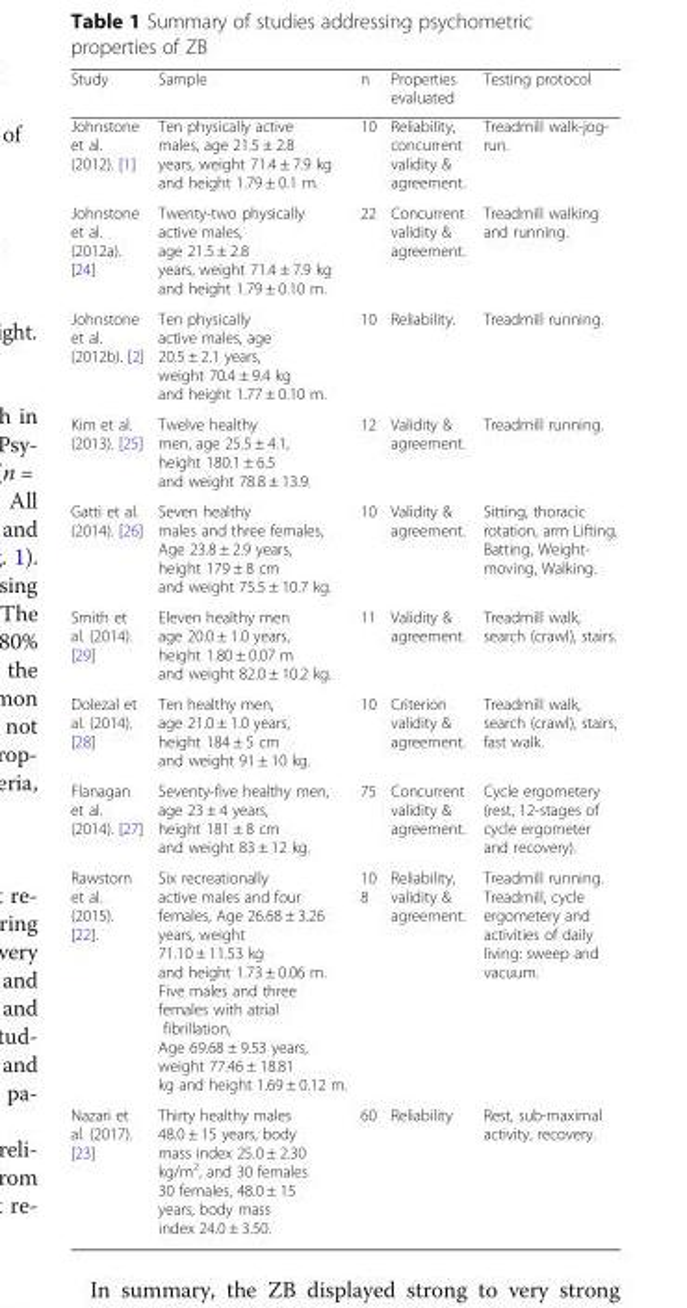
<table><thead><tr><td>Study</td><td>Sample</td><td>n</td><td>Properties evaluated</td><td>Testing protocol</td></tr></thead><tbody><tr><td>Johnstone et al. (2012). [1]</td><td>Ten physically active males, age 21.5 ± 2.8 years, weight 71.4 ± 7.9 kg and height 1.79 ± 0.1 m.</td><td>10</td><td>Reliability, concurrent validity &amp; agreement.</td><td>Treadmill walk-jog- run.</td></tr><tr><td>Johnstone et al. (2012a). [24]</td><td>Twenty-two physically active males, age 21.5 ± 2.8 years, weight 71.4 ± 7.9 kg and height 1.79 ± 0.10 m.</td><td>22</td><td>Concurrent validity &amp; agreement.</td><td>Treadmill walking and running.</td></tr><tr><td>Johnstone et al. (2012b). [2]</td><td>Ten physically active males, age 20.5 ± 2.1 years, weight 70.4 ± 9.4 kg and height 1.77 ± 0.10 m.</td><td>10</td><td>Reliability.</td><td>Treadmill running.</td></tr><tr><td>Kim et al. (2013). [25]</td><td>Twelve healthy men, age 25.5 ± 4.1, height 180.1 ± 6.5 and weight 78.8 ± 13.9.</td><td>12</td><td>Validity &amp; agreement.</td><td>Treadmill running.</td></tr><tr><td>Gatti et al. (2014). [26]</td><td>Seven healthy males and three females, Age 23.8 ± 2.9 years, height 179 ± 8 cm and weight 75.5 ± 10.7 kg.</td><td>10</td><td>Validity &amp; agreement.</td><td>Sitting, thoracic rotation, arm Lifting, Batting, Weight- moving, Walking.</td></tr><tr><td>Smith et al. (2014). [29]</td><td>Eleven healthy men age 20.0 ± 1.0 years, height 1.80 ± 0.07 m and weight 82.0 ± 10.2 kg.</td><td>11</td><td>Validity &amp; agreement.</td><td>Treadmill walk, search (crawl), stairs.</td></tr><tr><td>Dolezal et al. (2014). [28]</td><td>Ten healthy men, age 21.0 ± 1.0 years, height 184 ± 5 cm and weight 91 ± 10 kg.</td><td>10</td><td>Criterion validity &amp; agreement.</td><td>Treadmill walk, search (crawl), stairs, fast walk.</td></tr><tr><td>Flanagan et al. (2014). [27]</td><td>Seventy-five healthy men, age 23 ± 4 years, height 181 ± 8 cm and weight 83 ± 12 kg.</td><td>75</td><td>Concurrent validity &amp; agreement.</td><td>Cycle ergometery (rest, 12-stages of cycle ergometer and recovery).</td></tr><tr><td>Rawstorn et al. (2015). [22].</td><td>Six recreationally active males and four females, Age 26.68 ± 3.26 years, weight 71.10 ± 11.53 kg and height 1.73 ± 0.06 m. Five males and three females with atrial fibrillation, Age 69.68 ± 9.53 years, weight 77.46 ± 18.81 kg and height 1.69 ± 0.12 m.</td><td>10 8</td><td>Reliability, validity &amp; agreement.</td><td>Treadmill running. Treadmill, cycle ergometery and activities of daily living: sweep and vacuum.</td></tr><tr><td>Nazari et al. (2017). [23]</td><td>Thirty healthy males 48.0 ± 15 years, body mass index 25.0 ± 2.30 kg/m<sup>2</sup>, and 30 females 30 females, 48.0 ± 15 years, body mass index 24.0 ± 3.50.</td><td>60</td><td>Reliability</td><td>Rest, sub-maximal activity, recovery.</td></tr></tbody></table>